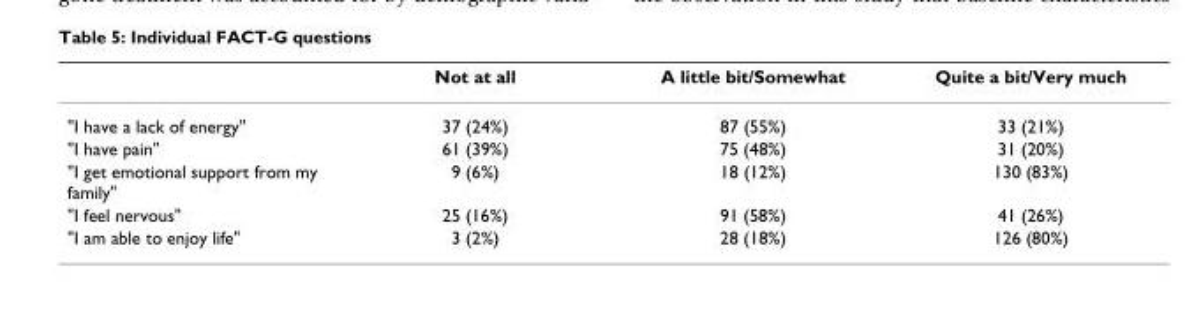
<table><thead><tr><td></td><td>Not at all</td><td>A little bit/Somewhat</td><td>Quite a bit/Very much</td></tr></thead><tbody><tr><td>&quot;I have a lack of energy&quot;</td><td>37 (24%)</td><td>87 (55%)</td><td>33 (21%)</td></tr><tr><td>&quot;I have pain&quot;</td><td>61 (39%)</td><td>75 (48%)</td><td>31 (20%)</td></tr><tr><td>&quot;I get emotional support from my family&quot;</td><td>9 (6%)</td><td>18 (12%)</td><td>130 (83%)</td></tr><tr><td>&quot;I feel nervous&quot;</td><td>25 (16%)</td><td>91 (58%)</td><td>41 (26%)</td></tr><tr><td>&quot;I am able to enjoy life&quot;</td><td>3 (2%)</td><td>28 (18%)</td><td>126 (80%)</td></tr></tbody></table>